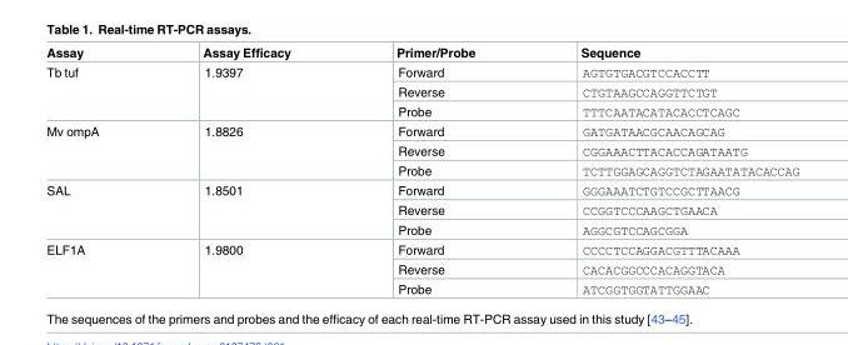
<table><thead><tr><td>Assay</td><td>Assay Efficacy</td><td>Primer/Probe</td><td>Sequence</td></tr></thead><tbody><tr><td rowspan="3">Tb tuf</td><td rowspan="3">1.9397</td><td>Forward</td><td>AGTGTGACGTCCACCTT</td></tr><tr><td>Reverse</td><td>CTGTAAGCCAGGTTCTGT</td></tr><tr><td>Probe</td><td>TTTCAATACATACACCTCAGC</td></tr><tr><td rowspan="3">Mv ompA</td><td rowspan="3">1.8826</td><td>Forward</td><td>GATGATAACGCAACAGCAG</td></tr><tr><td>Reverse</td><td>CGGAAACTTACACCAGATAATG</td></tr><tr><td>Probe</td><td>TCTTGGAGCAGGTCTAGAATATACACCAG</td></tr><tr><td rowspan="3">SAL</td><td rowspan="3">1.8501</td><td>Forward</td><td>GGGAAATCTGTCCGCTTAACG</td></tr><tr><td>Reverse</td><td>CCGGTCCCAAGCTGAACA</td></tr><tr><td>Probe</td><td>AGGCGTCCAGCGGA</td></tr><tr><td rowspan="3">ELF1A</td><td rowspan="3">1.9800</td><td>Forward</td><td>CCCCTCCAGGACGTTTACAAA</td></tr><tr><td>Reverse</td><td>CACACGGCCCACAGGTACA</td></tr><tr><td>Probe</td><td>ATCGGTGGTATTGGAAC</td></tr></tbody></table>